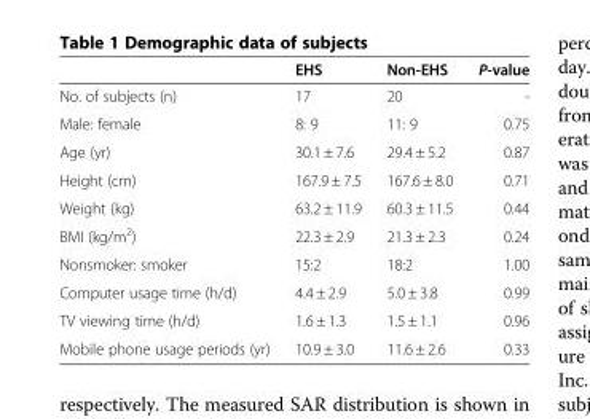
<table><thead><tr><td></td><td>EHS</td><td>Non-EHS</td><td>P-value</td></tr></thead><tbody><tr><td>No. of subjects (n)</td><td>17</td><td>20</td><td>-</td></tr><tr><td>Male: female</td><td>8: 9</td><td>11: 9</td><td>0.75</td></tr><tr><td>Age (yr)</td><td>30.1 ± 7.6</td><td>29.4 ± 5.2</td><td>0.87</td></tr><tr><td>Height (cm)</td><td>167.9 ± 7.5</td><td>167.6 ± 8.0</td><td>0.71</td></tr><tr><td>Weight (kg)</td><td>63.2 ± 11.9</td><td>60.3 ± 11.5</td><td>0.44</td></tr><tr><td>BMI (kg/m<sup>2</sup>)</td><td>22.3 ± 2.9</td><td>21.3 ± 2.3</td><td>0.24</td></tr><tr><td>Nonsmoker: smoker</td><td>15:2</td><td>18:2</td><td>1.00</td></tr><tr><td>Computer usage time (h/d)</td><td>4.4 ± 2.9</td><td>5.0 ± 3.8</td><td>0.99</td></tr><tr><td>TV viewing time (h/d)</td><td>1.6 ± 1.3</td><td>1.5 ± 1.1</td><td>0.96</td></tr><tr><td>Mobile phone usage periods (yr)</td><td>10.9 ± 3.0</td><td>11.6 ± 2.6</td><td>0.33</td></tr></tbody></table>